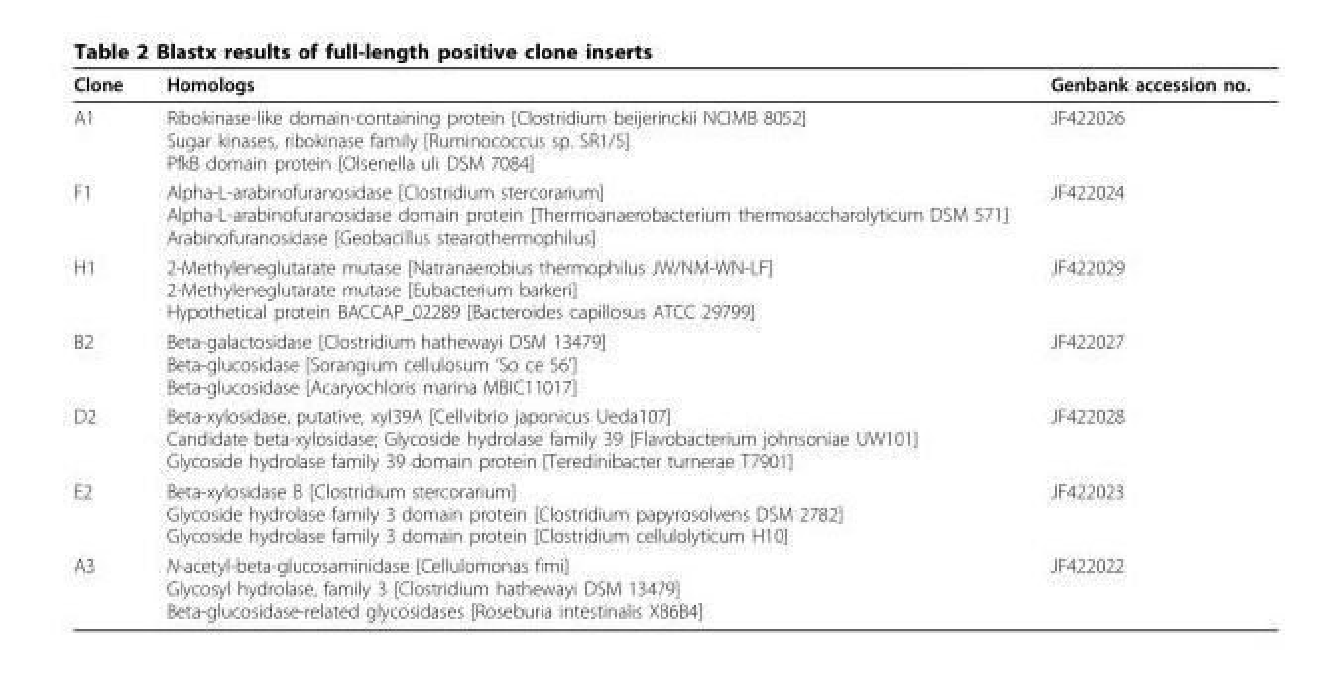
<table><thead><tr><td>Clone</td><td>Homologs</td><td>Genbank accession no.</td></tr></thead><tbody><tr><td>A1</td><td>Ribokinase-like domain-containing protein [Clostridium beijerinckii NCIMB 8052] Sugar kinases, ribokinase family [Ruminococcus sp. SR1/5] PfkB domain protein [Olsenella uli DSM 7084]</td><td>JF422026</td></tr><tr><td>F1</td><td>Alpha-L-arabinofuranosidase [Clostridium stercorarium] Alpha-L-arabinofuranosidase domain protein [Thermoanaerobacterium thermosaccharolyticum DSM 571] Arabinofuranosidase [Geobacillus stearothermophilus]</td><td>JF422024</td></tr><tr><td>H1</td><td>2-Methyleneglutarate mutase [Natranaerobius thermophilus JW/NM-WN-LF] 2-Methyleneglutarate mutase [Eubacterium barkeri] Hypothetical protein BACCAP_02289 [Bacteroides capillosus ATCC 29799]</td><td>JF422029</td></tr><tr><td>B2</td><td>Beta-galactosidase [Clostridium hathewayi DSM 13479] Beta-glucosidase [Sorangium cellulosum ‘So ce 56’] Beta-glucosidase [Acaryochloris marina MBIC11017]</td><td>JF422027</td></tr><tr><td>D2</td><td>Beta-xylosidase, putative, xyl39A [Cellvibrio japonicus Ueda107] Candidate beta-xylosidase; Glycoside hydrolase family 39 [Flavobacterium johnsoniae UW101] Glycoside hydrolase family 39 domain protein [Teredinibacter turnerae T7901]</td><td>JF422028</td></tr><tr><td>E2</td><td>Beta-xylosidase B [Clostridium stercorarium] Glycoside hydrolase family 3 domain protein [Clostridium papyrosolvens DSM 2782] Glycoside hydrolase family 3 domain protein [Clostridium cellulolyticum H10]</td><td>JF422023</td></tr><tr><td>A3</td><td>N-acetyl-beta-glucosaminidase [Cellulomonas fimi] Glycosyl hydrolase, family 3 [Clostridium hathewayi DSM 13479] Beta-glucosidase-related glycosidases [Roseburia intestinalis XB6B4]</td><td>JF422022</td></tr></tbody></table>